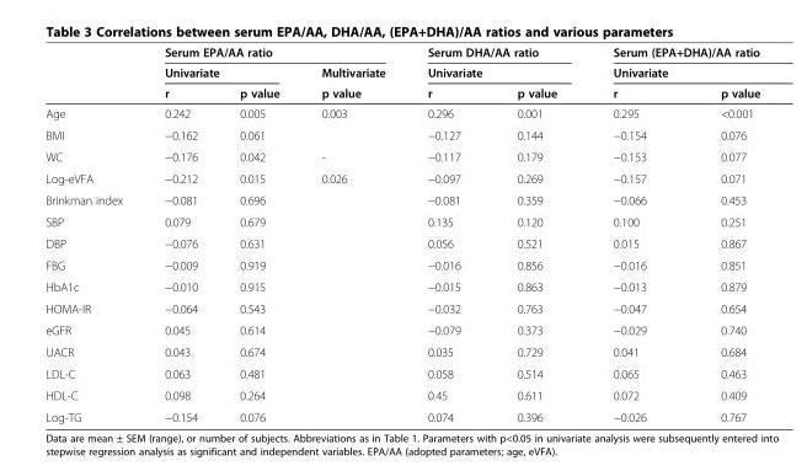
<table><thead><tr><td rowspan="3"></td><td colspan="3">Serum EPA/AA ratio</td><td rowspan="2" colspan="2">Serum DHA/AA ratio Univariate</td><td rowspan="2" colspan="2">Serum (EPA+DHA)/AA ratio Univariate</td></tr><tr><td colspan="2">Univariate</td><td rowspan="2">Multivariate p value</td></tr><tr><td>r</td><td>p value</td><td>r</td><td>p value</td><td>r</td><td>p value</td></tr></thead><tbody><tr><td>Age</td><td>0.242</td><td>0.005</td><td>0.003</td><td>0.296</td><td>0.001</td><td>0.295</td><td>&lt;0.001</td></tr><tr><td>BMI</td><td>−0.162</td><td>0.061</td><td></td><td>−0.127</td><td>0.144</td><td>−0.154</td><td>0.076</td></tr><tr><td>WC</td><td>−0.176</td><td>0.042</td><td>-</td><td>−0.117</td><td>0.179</td><td>−0.153</td><td>0.077</td></tr><tr><td>Log-eVFA</td><td>−0.212</td><td>0.015</td><td>0.026</td><td>−0.097</td><td>0.269</td><td>−0.157</td><td>0.071</td></tr><tr><td>Brinkman index</td><td>−0.081</td><td>0.696</td><td></td><td>−0.081</td><td>0.359</td><td>−0.066</td><td>0.453</td></tr><tr><td>SBP</td><td>0.079</td><td>0.679</td><td></td><td>0.135</td><td>0.120</td><td>0.100</td><td>0.251</td></tr><tr><td>DBP</td><td>−0.076</td><td>0.631</td><td></td><td>0.056</td><td>0.521</td><td>0.015</td><td>0.867</td></tr><tr><td>FBG</td><td>−0.009</td><td>0.919</td><td></td><td>−0.016</td><td>0.856</td><td>−0.016</td><td>0.851</td></tr><tr><td>HbA1c</td><td>−0.010</td><td>0.915</td><td></td><td>−0.015</td><td>0.863</td><td>−0.013</td><td>0.879</td></tr><tr><td>HOMA-IR</td><td>−0.064</td><td>0.543</td><td></td><td>−0.032</td><td>0.763</td><td>−0.047</td><td>0.654</td></tr><tr><td>eGFR</td><td>0.045</td><td>0.614</td><td></td><td>−0.079</td><td>0.373</td><td>−0.029</td><td>0.740</td></tr><tr><td>UACR</td><td>0.043</td><td>0.674</td><td></td><td>0.035</td><td>0.729</td><td>0.041</td><td>0.684</td></tr><tr><td>LDL-C</td><td>0.063</td><td>0.481</td><td></td><td>0.058</td><td>0.514</td><td>0.065</td><td>0.463</td></tr><tr><td>HDL-C</td><td>0.098</td><td>0.264</td><td></td><td>0.45</td><td>0.611</td><td>0.072</td><td>0.409</td></tr><tr><td>Log-TG</td><td>−0.154</td><td>0.076</td><td></td><td>0.074</td><td>0.396</td><td>−0.026</td><td>0.767</td></tr></tbody></table>